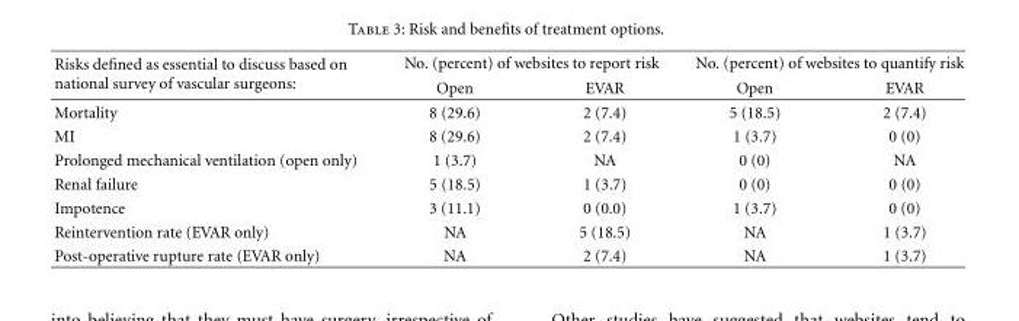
<table><thead><tr><td rowspan="2">Risks defined as essential to discuss based on national survey of vascular surgeons:</td><td colspan="2">No. (percent) of websites to report risk</td><td colspan="2">No. (percent) of websites to quantify risk</td></tr><tr><td>Open</td><td>EVAR</td><td>Open</td><td>EVAR</td></tr></thead><tbody><tr><td>Mortality</td><td>8 (29.6)</td><td>2 (7.4)</td><td>5 (18.5)</td><td>2 (7.4)</td></tr><tr><td>MI</td><td>8 (29.6)</td><td>2 (7.4)</td><td>1 (3.7)</td><td>0 (0)</td></tr><tr><td>Prolonged mechanical ventilation (open only)</td><td>1 (3.7)</td><td>NA</td><td>0 (0)</td><td>NA</td></tr><tr><td>Renal failure</td><td>5 (18.5)</td><td>1 (3.7)</td><td>0 (0)</td><td>0 (0)</td></tr><tr><td>Impotence</td><td>3 (11.1)</td><td>0 (0.0)</td><td>1 (3.7)</td><td>0 (0)</td></tr><tr><td>Reintervention rate (EVAR only)</td><td>NA</td><td>5 (18.5)</td><td>NA</td><td>1 (3.7)</td></tr><tr><td>Post-operative rupture rate (EVAR only)</td><td>NA</td><td>2 (7.4)</td><td>NA</td><td>1 (3.7)</td></tr></tbody></table>